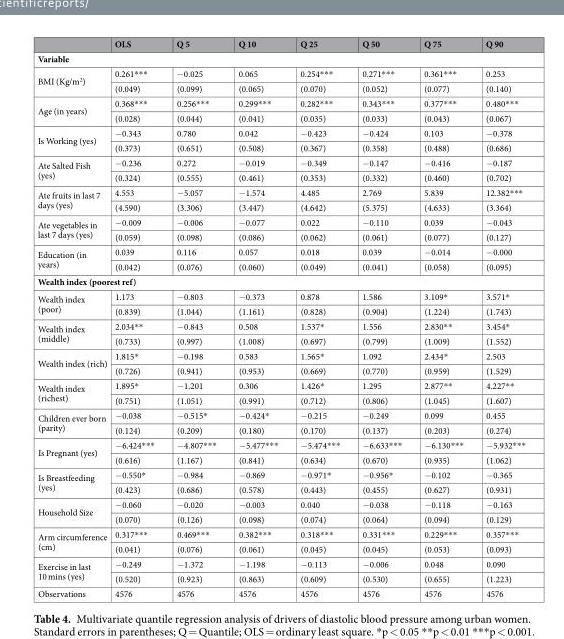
<table><thead><tr><td></td><td>OLS</td><td>Q 5</td><td>Q 10</td><td>Q 25</td><td>Q 50</td><td>Q 75</td><td>Q 90</td></tr></thead><tbody><tr><td colspan="8">Variable</td></tr><tr><td rowspan="2">BMI (Kg/m<sup>2</sup>)</td><td>0.261***</td><td>−0.025</td><td>0.065</td><td>0.254***</td><td>0.271***</td><td>0.361***</td><td>0.253</td></tr><tr><td>(0.049)</td><td>(0.099)</td><td>(0.065)</td><td>(0.070)</td><td>(0.052)</td><td>(0.077)</td><td>(0.140)</td></tr><tr><td rowspan="2">Age (in years)</td><td>0.368***</td><td>0.256***</td><td>0.299***</td><td>0.282***</td><td>0.343***</td><td>0.377***</td><td>0.480***</td></tr><tr><td>(0.028)</td><td>(0.044)</td><td>(0.041)</td><td>(0.035)</td><td>(0.033)</td><td>(0.043)</td><td>(0.067)</td></tr><tr><td rowspan="2">Is Working (yes)</td><td>−0.343</td><td>0.780</td><td>0.042</td><td>−0.423</td><td>−0.424</td><td>0.103</td><td>−0.378</td></tr><tr><td>(0.373)</td><td>(0.651)</td><td>(0.508)</td><td>(0.367)</td><td>(0.358)</td><td>(0.488)</td><td>(0.686)</td></tr><tr><td rowspan="2">Ate Salted Fish (yes)</td><td>−0.236</td><td>0.272</td><td>−0.019</td><td>−0.349</td><td>−0.147</td><td>−0.416</td><td>−0.187</td></tr><tr><td>(0.324)</td><td>(0.555)</td><td>(0.461)</td><td>(0.353)</td><td>(0.332)</td><td>(0.460)</td><td>(0.702)</td></tr><tr><td rowspan="2">Ate fruits in last 7 days (yes)</td><td>4.553</td><td>−5.057</td><td>−1.574</td><td>4.485</td><td>2.769</td><td>5.839</td><td>12.382***</td></tr><tr><td>(4.590)</td><td>(3.306)</td><td>(3.447)</td><td>(4.642)</td><td>(5.375)</td><td>(4.633)</td><td>(3.364)</td></tr><tr><td rowspan="2">Ate vegetables in last 7 days (yes)</td><td>−0.009</td><td>−0.006</td><td>−0.077</td><td>0.022</td><td>−0.110</td><td>0.039</td><td>−0.043</td></tr><tr><td>(0.059)</td><td>(0.098)</td><td>(0.086)</td><td>(0.062)</td><td>(0.061)</td><td>(0.077)</td><td>(0.127)</td></tr><tr><td rowspan="2">Education (in years)</td><td>0.039</td><td>0.116</td><td>0.057</td><td>0.018</td><td>0.039</td><td>−0.014</td><td>−0.000</td></tr><tr><td>(0.042)</td><td>(0.076)</td><td>(0.060)</td><td>(0.049)</td><td>(0.041)</td><td>(0.058)</td><td>(0.095)</td></tr><tr><td colspan="8">Wealth index (poorest ref)</td></tr><tr><td rowspan="2">Wealth index (poor)</td><td>1.173</td><td>−0.803</td><td>−0.373</td><td>0.878</td><td>1.586</td><td>3.109*</td><td>3.571*</td></tr><tr><td>(0.839)</td><td>(1.044)</td><td>(1.161)</td><td>(0.828)</td><td>(0.904)</td><td>(1.224)</td><td>(1.743)</td></tr><tr><td rowspan="2">Wealth index (middle)</td><td>2.034**</td><td>−0.843</td><td>0.508</td><td>1.537*</td><td>1.556</td><td>2.830**</td><td>3.454*</td></tr><tr><td>(0.733)</td><td>(0.997)</td><td>(1.008)</td><td>(0.697)</td><td>(0.799)</td><td>(1.009)</td><td>(1.552)</td></tr><tr><td rowspan="2">Wealth index (rich)</td><td>1.815*</td><td>−0.198</td><td>0.583</td><td>1.565*</td><td>1.092</td><td>2.434*</td><td>2.503</td></tr><tr><td>(0.726)</td><td>(0.941)</td><td>(0.953)</td><td>(0.669)</td><td>(0.770)</td><td>(0.959)</td><td>(1.529)</td></tr><tr><td rowspan="2">Wealth index (richest)</td><td>1.895*</td><td>−1.201</td><td>0.306</td><td>1.426*</td><td>1.295</td><td>2.877**</td><td>4.227**</td></tr><tr><td>(0.751)</td><td>(1.051)</td><td>(0.991)</td><td>(0.712)</td><td>(0.806)</td><td>(1.045)</td><td>(1.607)</td></tr><tr><td rowspan="2">Children ever born (parity)</td><td>−0.038</td><td>−0.515*</td><td>−0.424*</td><td>−0.215</td><td>−0.249</td><td>0.099</td><td>0.455</td></tr><tr><td>(0.124)</td><td>(0.209)</td><td>(0.180)</td><td>(0.170)</td><td>(0.137)</td><td>(0.203)</td><td>(0.274)</td></tr><tr><td rowspan="2">Is Pregnant (yes)</td><td>−6.424***</td><td>−4.807***</td><td>−5.477***</td><td>−5.474***</td><td>−6.633***</td><td>−6.130***</td><td>−5.932***</td></tr><tr><td>(0.616)</td><td>(1.167)</td><td>(0.841)</td><td>(0.634)</td><td>(0.670)</td><td>(0.935)</td><td>(1.062)</td></tr><tr><td rowspan="2">Is Breastfeeding (yes)</td><td>−0.550*</td><td>−0.984</td><td>−0.869</td><td>−0.971*</td><td>−0.956*</td><td>−0.102</td><td>−0.365</td></tr><tr><td>(0.423)</td><td>(0.686)</td><td>(0.578)</td><td>(0.443)</td><td>(0.455)</td><td>(0.627)</td><td>(0.931)</td></tr><tr><td rowspan="2">Household Size</td><td>−0.060</td><td>−0.020</td><td>−0.003</td><td>0.040</td><td>−0.038</td><td>−0.118</td><td>−0.163</td></tr><tr><td>(0.070)</td><td>(0.126)</td><td>(0.098)</td><td>(0.074)</td><td>(0.064)</td><td>(0.094)</td><td>(0.129)</td></tr><tr><td rowspan="2">Arm circumference (cm)</td><td>0.317***</td><td>0.469***</td><td>0.382***</td><td>0.318***</td><td>0.331***</td><td>0.229***</td><td>0.357***</td></tr><tr><td>(0.041)</td><td>(0.076)</td><td>(0.061)</td><td>(0.045)</td><td>(0.045)</td><td>(0.053)</td><td>(0.093)</td></tr><tr><td rowspan="2">Exercise in last 10 mins (yes)</td><td>−0.249</td><td>−1.372</td><td>−1.198</td><td>−0.113</td><td>−0.006</td><td>0.048</td><td>0.090</td></tr><tr><td>(0.520)</td><td>(0.923)</td><td>(0.863)</td><td>(0.609)</td><td>(0.530)</td><td>(0.655)</td><td>(1.223)</td></tr><tr><td>Observations</td><td>4576</td><td>4576</td><td>4576</td><td>4576</td><td>4576</td><td>4576</td><td>4576</td></tr></tbody></table>